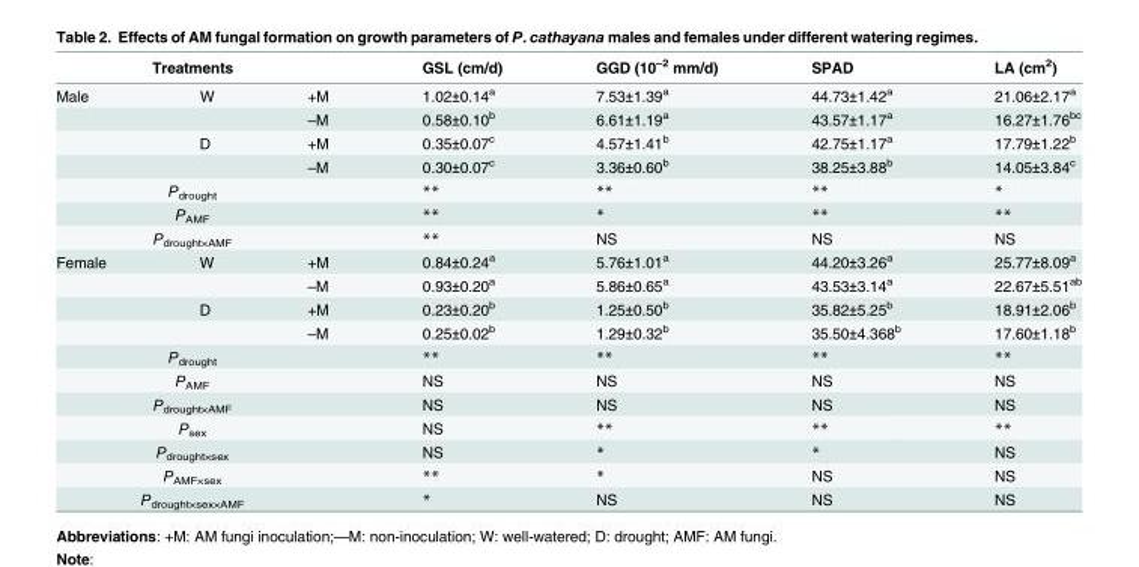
<table><thead><tr><td colspan="3">Treatments</td><td rowspan="2">GSL (cm/d) 1.02±0.14<sup>a</sup></td><td rowspan="2">GGD (10<sup>–2</sup> mm/d) 7.53±1.39<sup>a</sup></td><td rowspan="2">SPAD 44.73±1.42<sup>a</sup></td><td rowspan="2">LA (cm<sup>2</sup>) 21.06±2.17<sup>a</sup></td></tr><tr><td>Male</td><td>W</td><td>+M</td></tr></thead><tbody><tr><td></td><td></td><td>–M</td><td>0.58±0.10<sup>b</sup></td><td>6.61±1.19<sup>a</sup></td><td>43.57±1.17<sup>a</sup></td><td>16.27±1.76<sup>bc</sup></td></tr><tr><td></td><td>D</td><td>+M</td><td>0.35±0.07<sup>c</sup></td><td>4.57±1.41<sup>b</sup></td><td>42.75±1.17<sup>a</sup></td><td>17.79±1.22<sup>b</sup></td></tr><tr><td></td><td></td><td>–M</td><td>0.30±0.07<sup>c</sup></td><td>3.36±0.60<sup>b</sup></td><td>38.25±3.88<sup>b</sup></td><td>14.05±3.84<sup>c</sup></td></tr><tr><td colspan="3">P<sub>drought</sub></td><td>**</td><td>**</td><td>**</td><td>*</td></tr><tr><td colspan="3">P<sub>AMF</sub></td><td>**</td><td>*</td><td>**</td><td>**</td></tr><tr><td colspan="3">P<sub>drought×AMF</sub></td><td>**</td><td>NS</td><td>NS</td><td>NS</td></tr><tr><td rowspan="4">Female</td><td>W</td><td>+M</td><td>0.84±0.24<sup>a</sup></td><td>5.76±1.01<sup>a</sup></td><td>44.20±3.26<sup>a</sup></td><td>25.77±8.09<sup>a</sup></td></tr><tr><td></td><td>–M</td><td>0.93±0.20<sup>a</sup></td><td>5.86±0.65<sup>a</sup></td><td>43.53±3.14<sup>a</sup></td><td>22.67±5.51<sup>ab</sup></td></tr><tr><td>D</td><td>+M</td><td>0.23±0.20<sup>b</sup></td><td>1.25±0.50<sup>b</sup></td><td>35.82±5.25<sup>b</sup></td><td>18.91±2.06<sup>b</sup></td></tr><tr><td></td><td>–M</td><td>0.25±0.02<sup>b</sup></td><td>1.29±0.32<sup>b</sup></td><td>35.50±4.368<sup>b</sup></td><td>17.60±1.18<sup>b</sup></td></tr><tr><td colspan="3">P<sub>drought</sub></td><td>**</td><td>**</td><td>**</td><td>**</td></tr><tr><td colspan="3">P<sub>AMF</sub></td><td>NS</td><td>NS</td><td>NS</td><td>NS</td></tr><tr><td colspan="3">P<sub>drought×AMF</sub></td><td>NS</td><td>NS</td><td>NS</td><td>NS</td></tr><tr><td colspan="3">P<sub>sex</sub></td><td>NS</td><td>**</td><td>**</td><td>**</td></tr><tr><td colspan="3">P<sub>drought×sex</sub></td><td>NS</td><td>*</td><td>*</td><td>NS</td></tr><tr><td colspan="3">P<sub>AMF×sex</sub></td><td>**</td><td>*</td><td>NS</td><td>NS</td></tr><tr><td colspan="3">P<sub>drought×sex×AMF</sub></td><td>*</td><td>NS</td><td>NS</td><td>NS</td></tr></tbody></table>